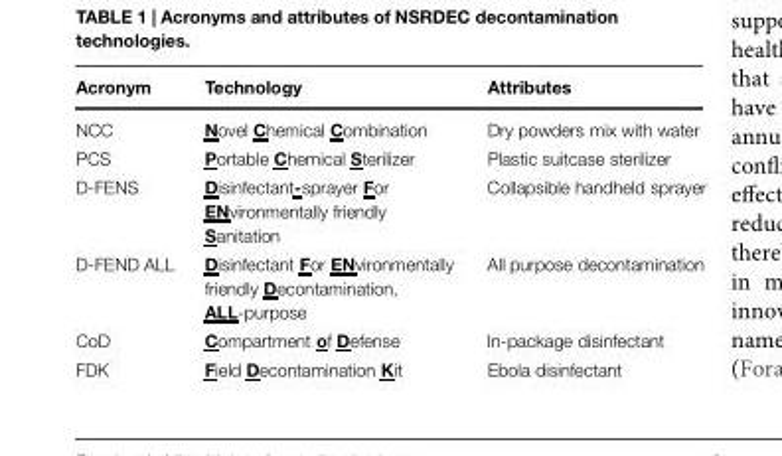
<table><thead><tr><td>Acronym</td><td>Technology</td><td>Attributes</td></tr></thead><tbody><tr><td>NCC</td><td>Novel Chemical Combination</td><td>Dry powders mix with water</td></tr><tr><td>PCS</td><td>Portable Chemical Sterilizer</td><td>Plastic suitcase sterilizer</td></tr><tr><td>D-FENS</td><td>Disinfectant-sprayer For ENvironmentally friendly Sanitation</td><td>Collapsible handheld sprayer</td></tr><tr><td>D-FEND ALL</td><td>Disinfectant For ENvironmentally friendly Decontamination, ALL-purpose</td><td>All purpose decontamination</td></tr><tr><td>CoD</td><td>Compartment of Defense</td><td>In-package disinfectant</td></tr><tr><td>FDK</td><td>Field Decontamination Kit</td><td>Ebola disinfectant</td></tr></tbody></table>